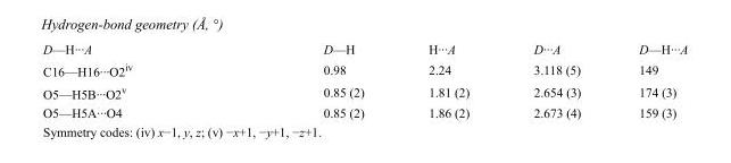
<table><tbody><tr><td>D—H···A</td><td>D—H</td><td>H···A</td><td>D···A</td><td>D—H···A</td></tr><tr><td>C16—H16···O2<sup>iv</sup></td><td>0.98</td><td>2.24</td><td>3.118 (5)</td><td>149</td></tr><tr><td>O5—H5B···O2<sup>v</sup></td><td>0.85 (2)</td><td>1.81 (2)</td><td>2.654 (3)</td><td>174 (3)</td></tr><tr><td>O5—H5A···O4</td><td>0.85 (2)</td><td>1.86 (2)</td><td>2.673 (4)</td><td>159 (3)</td></tr></tbody></table>